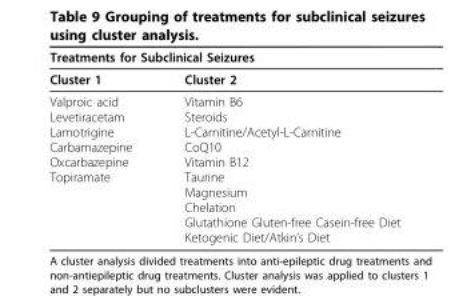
<table><thead><tr><td colspan="2">Treatments for Subclinical Seizures</td></tr><tr><td>Cluster 1</td><td>Cluster 2</td></tr></thead><tbody><tr><td>Valproic acid Levetiracetam Lamotrigine Carbamazepine Oxcarbazepine Topiramate</td><td>Vitamin B6 Steroids L-Carnitine/Acetyl-L-Carnitine CoQ10 Vitamin B12 Taurine Magnesium Chelation Glutathione Gluten-free Casein-free Diet Ketogenic Diet/Atkin’s Diet</td></tr></tbody></table>